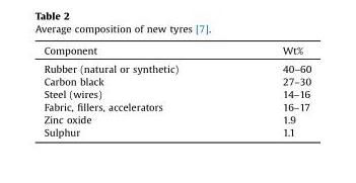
<table><thead><tr><td>Component</td><td>Wt%</td></tr></thead><tbody><tr><td>Rubber (natural or synthetic)</td><td>40–60</td></tr><tr><td>Carbon black</td><td>27–30</td></tr><tr><td>Steel (wires)</td><td>14–16</td></tr><tr><td>Fabric, fillers, accelerators</td><td>16–17</td></tr><tr><td>Zinc oxide</td><td>1.9</td></tr><tr><td>Sulphur</td><td>1.1</td></tr></tbody></table>